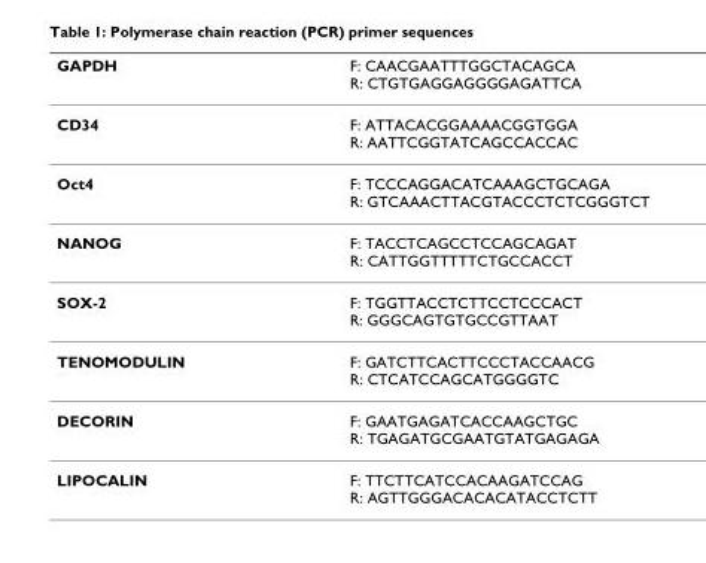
<table><thead><tr><td>GAPDH</td><td>F: CAACGAATTTGGCTACAGCA R: CTGTGAGGAGGGGAGATTCA</td></tr></thead><tbody><tr><td>CD34</td><td>F: ATTACACGGAAAACGGTGGA R: AATTCGGTATCAGCCACCAC</td></tr><tr><td>Oct4</td><td>F: TCCCAGGACATCAAAGCTGCAGA R: GTCAAACTTACGTACCCTCTCGGGTCT</td></tr><tr><td>NANOG</td><td>F: TACCTCAGCCTCCAGCAGAT R: CATTGGTTTTTCTGCCACCT</td></tr><tr><td>SOX-2</td><td>F: TGGTTACCTCTTCCTCCCACT R: GGGCAGTGTGCCGTTAAT</td></tr><tr><td>TENOMODULIN</td><td>F: GATCTTCACTTCCCTACCAACG R: CTCATCCAGCATGGGGTC</td></tr><tr><td>DECORIN</td><td>F: GAATGAGATCACCAAGCTGC R: TGAGATGCGAATGTATGAGAGA</td></tr><tr><td>LIPOCALIN</td><td>F: TTCTTCATCCACAAGATCCAG R: AGTTGGGACACACATACCTCTT</td></tr></tbody></table>